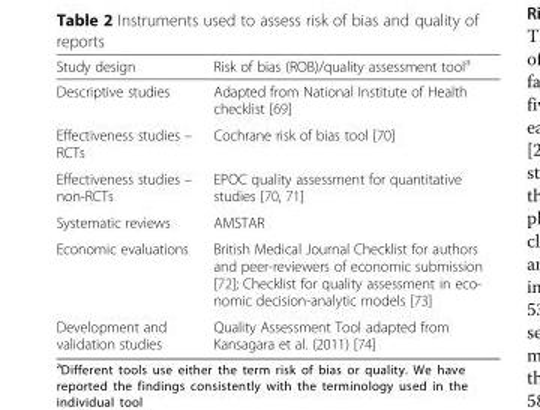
<table><thead><tr><td>Study design</td><td>Risk of bias (ROB)/quality assessment tool<sup>a</sup></td></tr></thead><tbody><tr><td>Descriptive studies</td><td>Adapted from National Institute of Health checklist [69]</td></tr><tr><td>Effectiveness studies – RCTs</td><td>Cochrane risk of bias tool [70]</td></tr><tr><td>Effectiveness studies – non-RCTs</td><td>EPOC quality assessment for quantitative studies [70, 71]</td></tr><tr><td>Systematic reviews</td><td>AMSTAR</td></tr><tr><td>Economic evaluations</td><td>British Medical Journal Checklist for authors and peer-reviewers of economic submission [72]; Checklist for quality assessment in eco- nomic decision-analytic models [73]</td></tr><tr><td>Development and validation studies</td><td>Quality Assessment Tool adapted from Kansagara et al. (2011) [74]</td></tr></tbody></table>